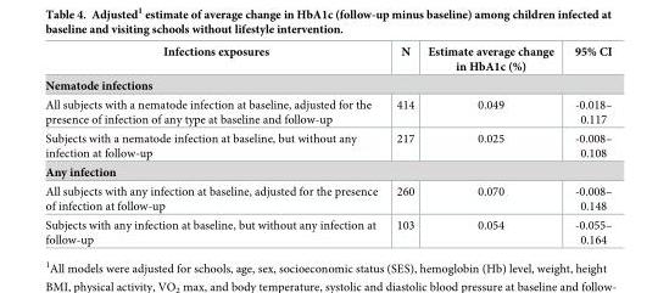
<table><thead><tr><td>Infections exposures</td><td>N</td><td>Estimate average change in HbA1c (%)</td><td>95% CI</td></tr></thead><tbody><tr><td colspan="4">Nematode infections</td></tr><tr><td>All subjects with a nematode infection at baseline, adjusted for the presence of infection of any type at baseline and follow-up</td><td>414</td><td>0.049</td><td>-0.018– 0.117</td></tr><tr><td>Subjects with a nematode infection at baseline, but without any infection at follow-up</td><td>217</td><td>0.025</td><td>-0.008– 0.108</td></tr><tr><td colspan="4">Any infection</td></tr><tr><td>All subjects with any infection at baseline, adjusted for the presence of infection at follow-up</td><td>260</td><td>0.070</td><td>-0.008– 0.148</td></tr><tr><td>Subjects with any infection at baseline, but without any infection at follow-up</td><td>103</td><td>0.054</td><td>-0.055– 0.164</td></tr></tbody></table>